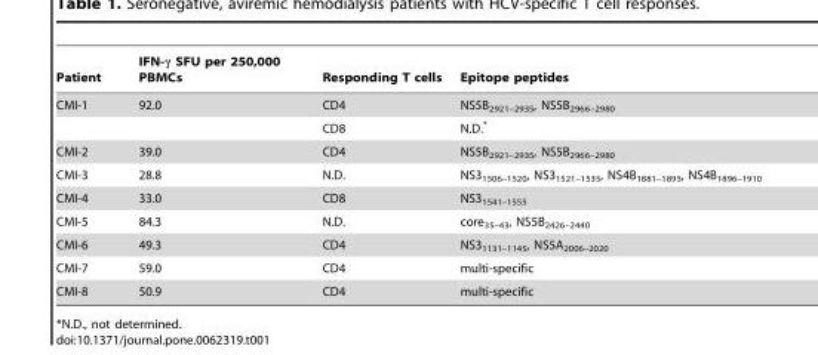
<table><thead><tr><td>Patient</td><td>IFN-γ SFU per 250,000 PBMCs</td><td>Responding T cells</td><td>Epitope peptides</td></tr></thead><tbody><tr><td rowspan="2">CMI-1</td><td>92.0</td><td>CD4</td><td>NS5B<sub>2921–2935</sub>, NS5B<sub>2966–2980</sub></td></tr><tr><td></td><td>CD8</td><td>N.D.*</td></tr><tr><td>CMI-2</td><td>39.0</td><td>CD4</td><td>NS5B<sub>2921–2935</sub>, NS5B<sub>2966–2980</sub></td></tr><tr><td>CMI-3</td><td>28.8</td><td>N.D.</td><td>NS3<sub>1506–1520</sub>, NS3<sub>1521–1535</sub>, NS4B<sub>1881–1895</sub>, NS4B<sub>1896–1910</sub></td></tr><tr><td>CMI-4</td><td>33.0</td><td>CD8</td><td>NS3<sub>1541–1555</sub></td></tr><tr><td>CMI-5</td><td>84.3</td><td>N.D.</td><td>core<sub>35–43</sub>, NS5B<sub>2426–2440</sub></td></tr><tr><td>CMI-6</td><td>49.3</td><td>CD4</td><td>NS3<sub>1131–1145</sub>, NS5A<sub>2006–2020</sub></td></tr><tr><td>CMI-7</td><td>59.0</td><td>CD4</td><td>multi-specific</td></tr><tr><td>CMI-8</td><td>50.9</td><td>CD4</td><td>multi-specific</td></tr></tbody></table>